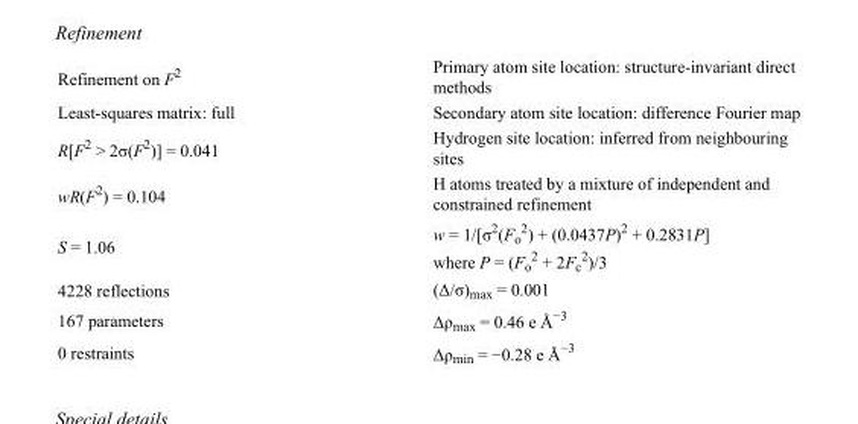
<table><tbody><tr><td>Refinement on F<sup>2</sup></td><td>Primary atom site location: structure-invariant direct methods</td></tr><tr><td>Least-squares matrix: full</td><td>Secondary atom site location: difference Fourier map</td></tr><tr><td>R[F<sup>2</sup> &gt; 2σ(F<sup>2</sup>)] = 0.041</td><td>Hydrogen site location: inferred from neighbouring sites</td></tr><tr><td>wR(F<sup>2</sup>) = 0.104</td><td>H atoms treated by a mixture of independent and constrained refinement</td></tr><tr><td>S = 1.06</td><td>w = 1/[σ<sup>2</sup>(F<sub>o</sub> <sup>2</sup>) + (0.0437P)<sup>2</sup> + 0.2831P] where P = (F<sub>o</sub> <sup>2</sup> + 2F<sub>c</sub> <sup>2</sup>)/3</td></tr><tr><td>4228 reflections</td><td>(Δ/σ)<sub>max</sub> = 0.001</td></tr><tr><td>167 parameters</td><td>Δρ<sub>max</sub> = 0.46 e Å<sup>−3</sup></td></tr><tr><td>0 restraints</td><td>Δρ<sub>min</sub> = −0.28 e Å<sup>−3</sup></td></tr></tbody></table>